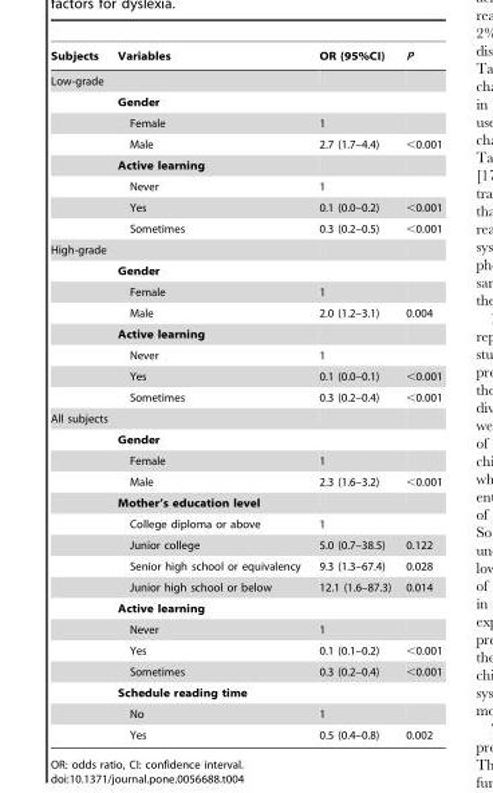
<table><thead><tr><td>Subjects</td><td>Variables</td><td>OR (95%CI)</td><td>P</td></tr></thead><tbody><tr><td colspan="4">Low-grade</td></tr><tr><td></td><td>Gender</td><td></td><td></td></tr><tr><td></td><td>Female</td><td>1</td><td></td></tr><tr><td></td><td>Male</td><td>2.7 (1.7–4.4)</td><td>&lt;0.001</td></tr><tr><td></td><td>Active learning</td><td></td><td></td></tr><tr><td></td><td>Never</td><td>1</td><td></td></tr><tr><td></td><td>Yes</td><td>0.1 (0.0–0.2)</td><td>&lt;0.001</td></tr><tr><td></td><td>Sometimes</td><td>0.3 (0.2–0.5)</td><td>&lt;0.001</td></tr><tr><td colspan="4">High-grade</td></tr><tr><td></td><td>Gender</td><td></td><td></td></tr><tr><td></td><td>Female</td><td>1</td><td></td></tr><tr><td></td><td>Male</td><td>2.0 (1.2–3.1)</td><td>0.004</td></tr><tr><td></td><td>Active learning</td><td></td><td></td></tr><tr><td></td><td>Never</td><td>1</td><td></td></tr><tr><td></td><td>Yes</td><td>0.1 (0.0–0.1)</td><td>&lt;0.001</td></tr><tr><td></td><td>Sometimes</td><td>0.3 (0.2–0.4)</td><td>&lt;0.001</td></tr><tr><td colspan="4">All subjects</td></tr><tr><td></td><td>Gender</td><td></td><td></td></tr><tr><td></td><td>Female</td><td>1</td><td></td></tr><tr><td></td><td>Male</td><td>2.3 (1.6–3.2)</td><td>&lt;0.001</td></tr><tr><td></td><td>Mother’s education level</td><td></td><td></td></tr><tr><td></td><td>College diploma or above</td><td>1</td><td></td></tr><tr><td></td><td>Junior college</td><td>5.0 (0.7–38.5)</td><td>0.122</td></tr><tr><td></td><td>Senior high school or equivalency</td><td>9.3 (1.3–67.4)</td><td>0.028</td></tr><tr><td></td><td>Junior high school or below</td><td>12.1 (1.6–87.3)</td><td>0.014</td></tr><tr><td></td><td>Active learning</td><td></td><td></td></tr><tr><td></td><td>Never</td><td>1</td><td></td></tr><tr><td></td><td>Yes</td><td>0.1 (0.1–0.2)</td><td>&lt;0.001</td></tr><tr><td></td><td>Sometimes</td><td>0.3 (0.2–0.4)</td><td>&lt;0.001</td></tr><tr><td></td><td>Schedule reading time</td><td></td><td></td></tr><tr><td></td><td>No</td><td>1</td><td></td></tr><tr><td></td><td>Yes</td><td>0.5 (0.4–0.8)</td><td>0.002</td></tr></tbody></table>